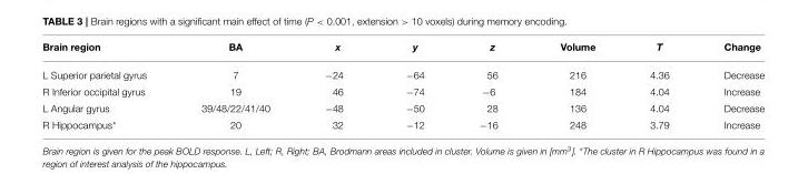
<table><thead><tr><td>Brain region</td><td>BA</td><td>x</td><td>y</td><td>z</td><td>Volume</td><td>T</td><td>Change</td></tr></thead><tbody><tr><td>L Superior parietal gyrus</td><td>7</td><td>−24</td><td>−64</td><td>56</td><td>216</td><td>4.36</td><td>Decrease</td></tr><tr><td>R Inferior occipital gyrus</td><td>19</td><td>46</td><td>−74</td><td>−6</td><td>184</td><td>4.04</td><td>Increase</td></tr><tr><td>L Angular gyrus</td><td>39/48/22/41/40</td><td>−48</td><td>−50</td><td>28</td><td>136</td><td>4.04</td><td>Decrease</td></tr><tr><td>R Hippocampus*</td><td>20</td><td>32</td><td>−12</td><td>−16</td><td>248</td><td>3.79</td><td>Increase</td></tr></tbody></table>